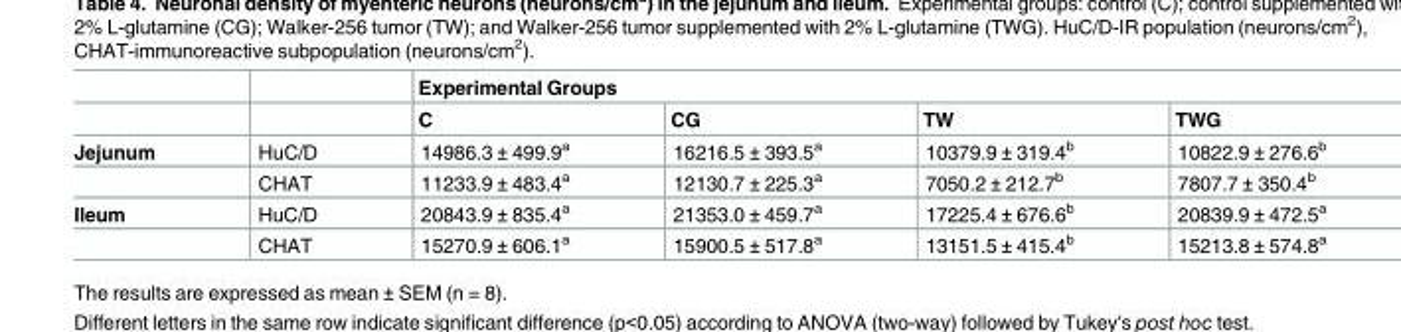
<table><thead><tr><td rowspan="2"></td><td rowspan="2"></td><td colspan="4">Experimental Groups</td></tr><tr><td>C</td><td>CG</td><td>TW</td><td>TWG</td></tr></thead><tbody><tr><td rowspan="2">Jejunum</td><td>HuC/D</td><td>14986.3 ± 499.9<sup>a</sup></td><td>16216.5 ± 393.5<sup>a</sup></td><td>10379.9 ± 319.4<sup>b</sup></td><td>10822.9 ± 276.6<sup>b</sup></td></tr><tr><td>CHAT</td><td>11233.9 ± 483.4<sup>a</sup></td><td>12130.7 ± 225.3<sup>a</sup></td><td>7050.2 ± 212.7<sup>b</sup></td><td>7807.7 ± 350.4<sup>b</sup></td></tr><tr><td rowspan="2">Ileum</td><td>HuC/D</td><td>20843.9 ± 835.4<sup>a</sup></td><td>21353.0 ± 459.7<sup>a</sup></td><td>17225.4 ± 676.6<sup>b</sup></td><td>20839.9 ± 472.5<sup>a</sup></td></tr><tr><td>CHAT</td><td>15270.9 ± 606.1<sup>a</sup></td><td>15900.5 ± 517.8<sup>a</sup></td><td>13151.5 ± 415.4<sup>b</sup></td><td>15213.8 ± 574.8<sup>a</sup></td></tr></tbody></table>